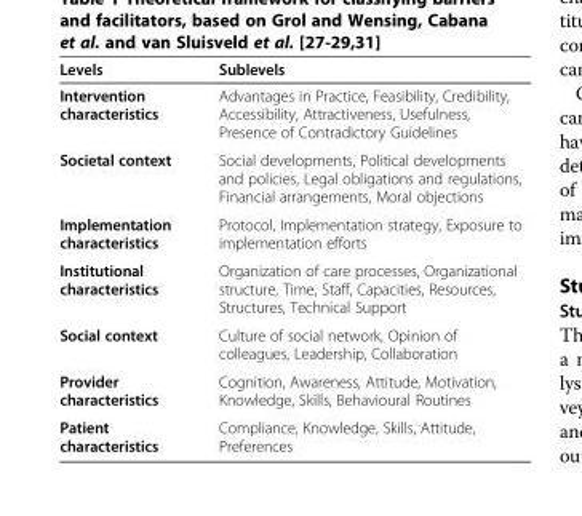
<table><thead><tr><td>Levels</td><td>Sublevels</td></tr></thead><tbody><tr><td>Intervention characteristics</td><td>Advantages in Practice, Feasibility, Credibility, Accessibility, Attractiveness, Usefulness, Presence of Contradictory Guidelines</td></tr><tr><td>Societal context</td><td>Social developments, Political developments and policies, Legal obligations and regulations, Financial arrangements, Moral objections</td></tr><tr><td>Implementation characteristics</td><td>Protocol, Implementation strategy, Exposure to implementation efforts</td></tr><tr><td>Institutional characteristics</td><td>Organization of care processes, Organizational structure, Time, Staff, Capacities, Resources, Structures, Technical Support</td></tr><tr><td>Social context</td><td>Culture of social network, Opinion of colleagues, Leadership, Collaboration</td></tr><tr><td>Provider characteristics</td><td>Cognition, Awareness, Attitude, Motivation, Knowledge, Skills, Behavioural Routines</td></tr><tr><td>Patient characteristics</td><td>Compliance, Knowledge, Skills, Attitude, Preferences</td></tr></tbody></table>